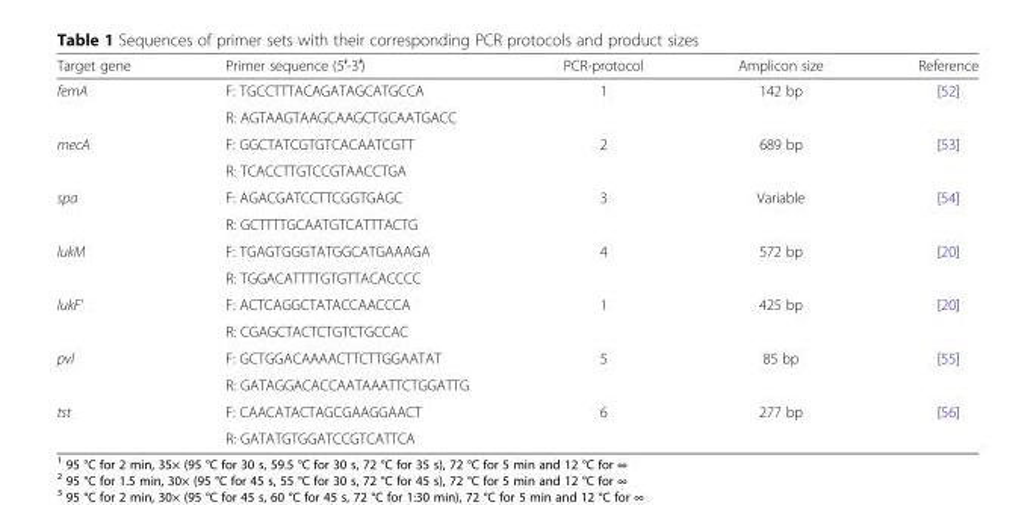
<table><thead><tr><td>Target gene</td><td>Primer sequence (5′-3′)</td><td>PCR-protocol</td><td>Amplicon size</td><td>Reference</td></tr></thead><tbody><tr><td rowspan="2">femA</td><td>F: TGCCTTTACAGATAGCATGCCA</td><td rowspan="2">1</td><td rowspan="2">142 bp</td><td rowspan="2">[52]</td></tr><tr><td>R: AGTAAGTAAGCAAGCTGCAATGACC</td></tr><tr><td rowspan="2">mecA</td><td>F: GGCTATCGTGTCACAATCGTT</td><td rowspan="2">2</td><td rowspan="2">689 bp</td><td rowspan="2">[53]</td></tr><tr><td>R: TCACCTTGTCCGTAACCTGA</td></tr><tr><td rowspan="2">spa</td><td>F: AGACGATCCTTCGGTGAGC</td><td rowspan="2">3</td><td rowspan="2">Variable</td><td rowspan="2">[54]</td></tr><tr><td>R: GCTTTTGCAATGTCATTTACTG</td></tr><tr><td rowspan="2">lukM</td><td>F: TGAGTGGGTATGGCATGAAAGA</td><td rowspan="2">4</td><td rowspan="2">572 bp</td><td rowspan="2">[20]</td></tr><tr><td>R: TGGACATTTTGTGTTACACCCC</td></tr><tr><td rowspan="2">lukF’</td><td>F: ACTCAGGCTATACCAACCCA</td><td rowspan="2">1</td><td rowspan="2">425 bp</td><td rowspan="2">[20]</td></tr><tr><td>R: CGAGCTACTCTGTCTGCCAC</td></tr><tr><td rowspan="2">pvl</td><td>F: GCTGGACAAAACTTCTTGGAATAT</td><td rowspan="2">5</td><td rowspan="2">85 bp</td><td rowspan="2">[55]</td></tr><tr><td>R: GATAGGACACCAATAAATTCTGGATTG</td></tr><tr><td rowspan="2">tst</td><td>F: CAACATACTAGCGAAGGAACT</td><td rowspan="2">6</td><td rowspan="2">277 bp</td><td rowspan="2">[56]</td></tr><tr><td>R: GATATGTGGATCCGTCATTCA</td></tr></tbody></table>